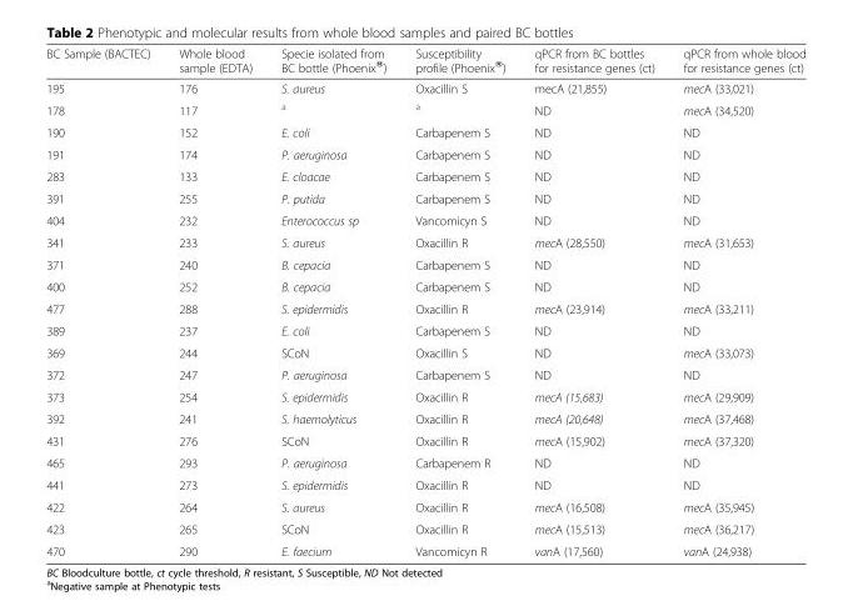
<table><thead><tr><td>BC Sample (BACTEC)</td><td>Whole blood sample (EDTA)</td><td>Specie isolated from BC bottle (Phoenix®)</td><td>Susceptibility profile (Phoenix®)</td><td>qPCR from BC bottles for resistance genes (ct)</td><td>qPCR from whole blood for resistance genes (ct)</td></tr></thead><tbody><tr><td>195</td><td>176</td><td>S. aureus</td><td>Oxacillin S</td><td>mecA (21,855)</td><td>mecA (33,021)</td></tr><tr><td>178</td><td>117</td><td><sup>a</sup></td><td><sup>a</sup></td><td>ND</td><td>mecA (34,520)</td></tr><tr><td>190</td><td>152</td><td>E. coli</td><td>Carbapenem S</td><td>ND</td><td>ND</td></tr><tr><td>191</td><td>174</td><td>P. aeruginosa</td><td>Carbapenem S</td><td>ND</td><td>ND</td></tr><tr><td>283</td><td>133</td><td>E. cloacae</td><td>Carbapenem S</td><td>ND</td><td>ND</td></tr><tr><td>391</td><td>255</td><td>P. putida</td><td>Carbapenem S</td><td>ND</td><td>ND</td></tr><tr><td>404</td><td>232</td><td>Enterococcus sp</td><td>Vancomicyn S</td><td>ND</td><td>ND</td></tr><tr><td>341</td><td>233</td><td>S. aureus</td><td>Oxacillin R</td><td>mecA (28,550)</td><td>mecA (31,653)</td></tr><tr><td>371</td><td>240</td><td>B. cepacia</td><td>Carbapenem S</td><td>ND</td><td>ND</td></tr><tr><td>400</td><td>252</td><td>B. cepacia</td><td>Carbapenem S</td><td>ND</td><td>ND</td></tr><tr><td>477</td><td>288</td><td>S. epidermidis</td><td>Oxacillin R</td><td>mecA (23,914)</td><td>mecA (33,211)</td></tr><tr><td>389</td><td>237</td><td>E. coli</td><td>Carbapenem S</td><td>ND</td><td>ND</td></tr><tr><td>369</td><td>244</td><td>SCoN</td><td>Oxacillin S</td><td>ND</td><td>mecA (33,073)</td></tr><tr><td>372</td><td>247</td><td>P. aeruginosa</td><td>Carbapenem S</td><td>ND</td><td>ND</td></tr><tr><td>373</td><td>254</td><td>S. epidermidis</td><td>Oxacillin R</td><td>mecA (15,683)</td><td>mecA (29,909)</td></tr><tr><td>392</td><td>241</td><td>S. haemolyticus</td><td>Oxacillin R</td><td>mecA (20,648)</td><td>mecA (37,468)</td></tr><tr><td>431</td><td>276</td><td>SCoN</td><td>Oxacillin R</td><td>mecA (15,902)</td><td>mecA (37,320)</td></tr><tr><td>465</td><td>293</td><td>P. aeruginosa</td><td>Carbapenem R</td><td>ND</td><td>ND</td></tr><tr><td>441</td><td>273</td><td>S. epidermidis</td><td>Oxacillin R</td><td>ND</td><td>ND</td></tr><tr><td>422</td><td>264</td><td>S. aureus</td><td>Oxacillin R</td><td>mecA (16,508)</td><td>mecA (35,945)</td></tr><tr><td>423</td><td>265</td><td>SCoN</td><td>Oxacillin R</td><td>mecA (15,513)</td><td>mecA (36,217)</td></tr><tr><td>470</td><td>290</td><td>E. faecium</td><td>Vancomicyn R</td><td>vanA (17,560)</td><td>vanA (24,938)</td></tr></tbody></table>